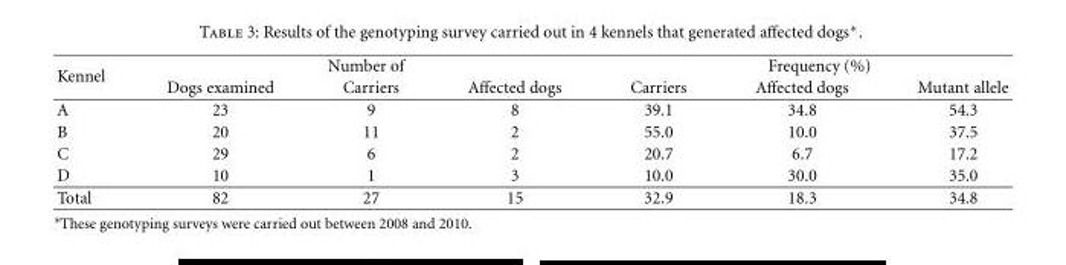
<table><thead><tr><td rowspan="2">Kennel</td><td colspan="3">Number of</td><td colspan="3">Frequency (%)</td></tr><tr><td>Dogs examined</td><td>Carriers</td><td>Affected dogs</td><td>Carriers</td><td>Affected dogs</td><td>Mutant allele</td></tr></thead><tbody><tr><td>A</td><td>23</td><td>9</td><td>8</td><td>39.1</td><td>34.8</td><td>54.3</td></tr><tr><td>B</td><td>20</td><td>11</td><td>2</td><td>55.0</td><td>10.0</td><td>37.5</td></tr><tr><td>C</td><td>29</td><td>6</td><td>2</td><td>20.7</td><td>6.7</td><td>17.2</td></tr><tr><td>D</td><td>10</td><td>1</td><td>3</td><td>10.0</td><td>30.0</td><td>35.0</td></tr><tr><td>Total</td><td>82</td><td>27</td><td>15</td><td>32.9</td><td>18.3</td><td>34.8</td></tr></tbody></table>